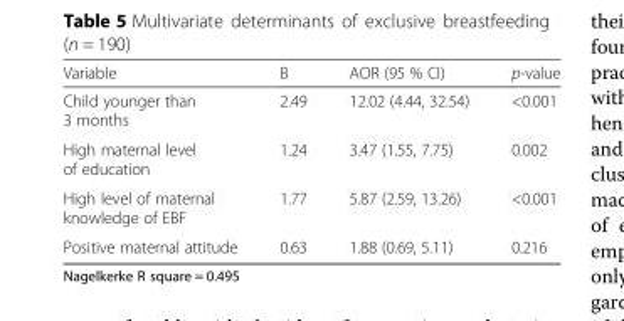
<table><thead><tr><td>Variable</td><td>B</td><td>AOR (95 % CI)</td><td>p-value</td></tr></thead><tbody><tr><td>Child younger than 3 months</td><td>2.49</td><td>12.02 (4.44, 32.54)</td><td>&lt;0.001</td></tr><tr><td>High maternal level of education</td><td>1.24</td><td>3.47 (1.55, 7.75)</td><td>0.002</td></tr><tr><td>High level of maternal knowledge of EBF</td><td>1.77</td><td>5.87 (2.59, 13.26)</td><td>&lt;0.001</td></tr><tr><td>Positive maternal attitude</td><td>0.63</td><td>1.88 (0.69, 5.11)</td><td>0.216</td></tr></tbody></table>